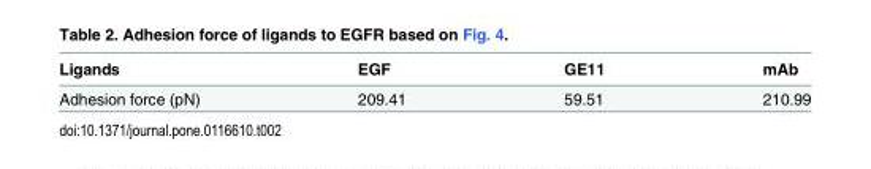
<table><thead><tr><td>Ligands</td><td>EGF</td><td>GE11</td><td>mAb</td></tr></thead><tbody><tr><td>Adhesion force (pN)</td><td>209.41</td><td>59.51</td><td>210.99</td></tr></tbody></table>